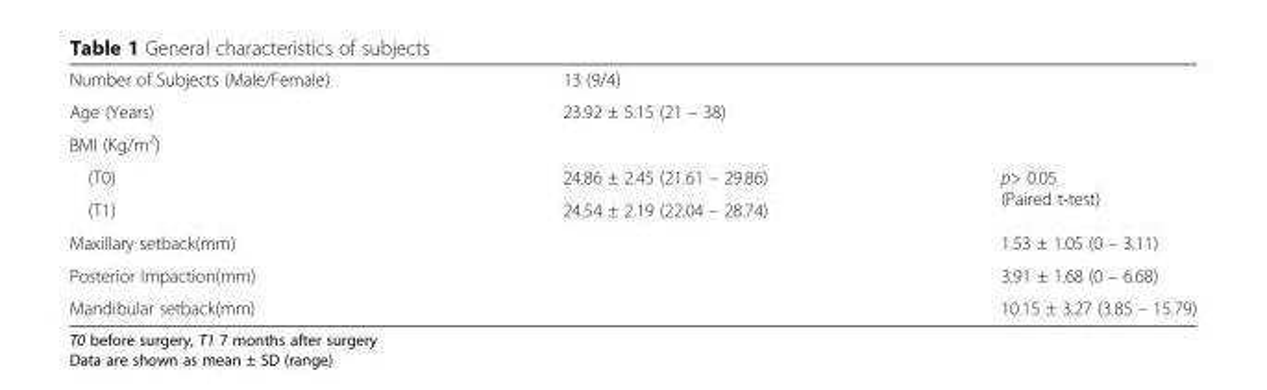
<table><tbody><tr><td>Number of Subjects (Male/Female)</td><td colspan="2">13 (9/4)</td></tr><tr><td>Age (Years)</td><td colspan="2">23.92 ± 5.15 (21 – 38)</td></tr><tr><td colspan="3">BMI (Kg/m<sup>2</sup>)</td></tr><tr><td>(T0)</td><td>24.86 ± 2.45 (21.61 – 29.86)</td><td rowspan="2">p&gt; 0.05 (Paired t-test)</td></tr><tr><td>(T1)</td><td>24.54 ± 2.19 (22.04 – 28.74)</td></tr><tr><td>Maxillary setback(mm)</td><td></td><td>1.53 ± 1.05 (0 – 3.11)</td></tr><tr><td>Posterior Impaction(mm)</td><td></td><td>3.91 ± 1.68 (0 – 6.68)</td></tr><tr><td>Mandibular setback(mm)</td><td></td><td>10.15 ± 3.27 (3.85 – 15.79)</td></tr></tbody></table>